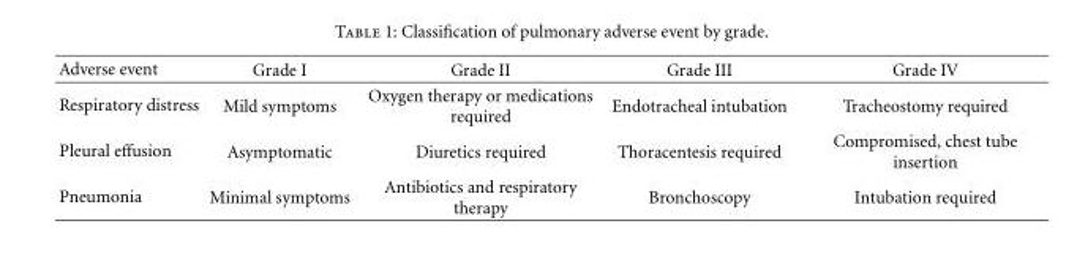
<table><thead><tr><td>Adverse event</td><td>Grade I</td><td>Grade II</td><td>Grade III</td><td>Grade IV</td></tr></thead><tbody><tr><td>Respiratory distress</td><td>Mild symptoms</td><td>Oxygen therapy or medications required</td><td>Endotracheal intubation</td><td>Tracheostomy required</td></tr><tr><td>Pleural effusion</td><td>Asymptomatic</td><td>Diuretics required</td><td>Thoracentesis required</td><td>Compromised, chest tube insertion</td></tr><tr><td>Pneumonia</td><td>Minimal symptoms</td><td>Antibiotics and respiratory therapy</td><td>Bronchoscopy</td><td>Intubation required</td></tr></tbody></table>